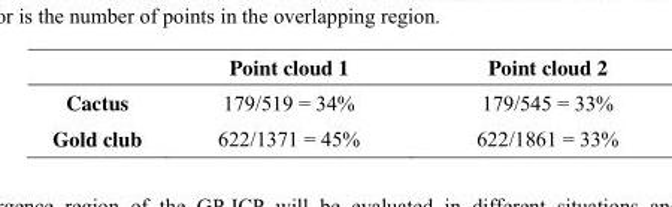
<table><thead><tr><td></td><td>Point cloud 1</td><td>Point cloud 2</td></tr></thead><tbody><tr><td>Cactus</td><td>179/519 = 34%</td><td>179/545 = 33%</td></tr><tr><td>Gold club</td><td>622/1371 = 45%</td><td>622/1861 = 33%</td></tr></tbody></table>